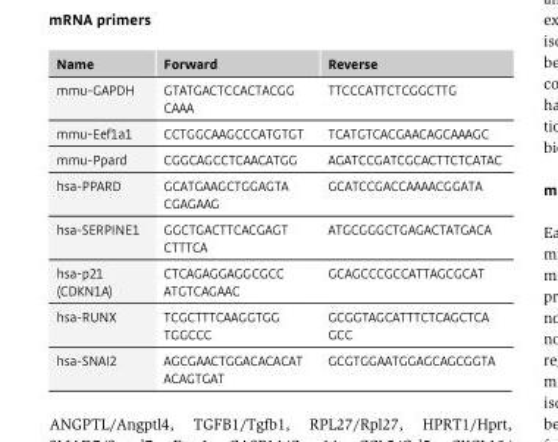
<table><thead><tr><td>Name</td><td>Forward</td><td>Reverse</td></tr></thead><tbody><tr><td>mmu-GAPDH</td><td>GTATGACTCCACTACGG CAAA</td><td>TTCCCATTCTCGGCTTG</td></tr><tr><td>mmu-Eef1a1</td><td>CCTGGCAAGCCCATGTGT</td><td>TCATGTCACGAACAGCAAAGC</td></tr><tr><td>mmu-Ppard</td><td>CGGCAGCCTCAACATGG</td><td>AGATCCGATCGCACTTCTCATAC</td></tr><tr><td>hsa-PPARD</td><td>GCATGAAGCTGGAGTA CGAGAAG</td><td>GCATCCGACCAAAACGGATA</td></tr><tr><td>hsa-SERPINE1</td><td>GGCTGACTTCACGAGT CTTTCA</td><td>ATGCGGGCTGAGACTATGACA</td></tr><tr><td>hsa-p21 (CDKN1A)</td><td>CTCAGAGGAGGCGCC ATGTCAGAAC</td><td>GCAGCCCGCCATTAGCGCAT</td></tr><tr><td>hsa-RUNX</td><td>TCGCTTTCAAGGTGG TGGCCC</td><td>GCGGTAGCATTTCTCAGCTCA GCC</td></tr><tr><td>hsa-SNAI2</td><td>AGCGAACTGGACACACAT ACAGTGAT</td><td>GCGTGGAATGGAGCAGCGGTA</td></tr></tbody></table>